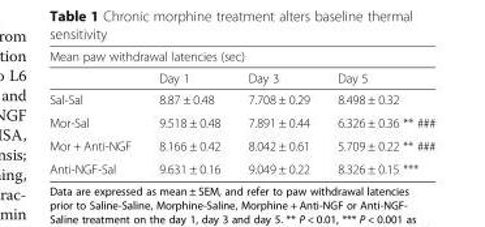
<table><thead><tr><td colspan="4">Mean paw withdrawal latencies (sec)</td></tr><tr><td></td><td>Day 1</td><td>Day 3</td><td>Day 5</td></tr></thead><tbody><tr><td>Sal-Sal</td><td>8.87 ± 0.48</td><td>7.708 ± 0.29</td><td>8.498 ± 0.32</td></tr><tr><td>Mor-Sal</td><td>9.518 ± 0.48</td><td>7.891 ± 0.44</td><td>6.326 ± 0.36 ** ###</td></tr><tr><td>Mor + Anti-NGF</td><td>8.166 ± 0.42</td><td>8.042 ± 0.61</td><td>5.709 ± 0.22 ** ###</td></tr><tr><td>Anti-NGF-Sal</td><td>9.631 ± 0.16</td><td>9.049 ± 0.22</td><td>8.326 ± 0.15 ***</td></tr></tbody></table>